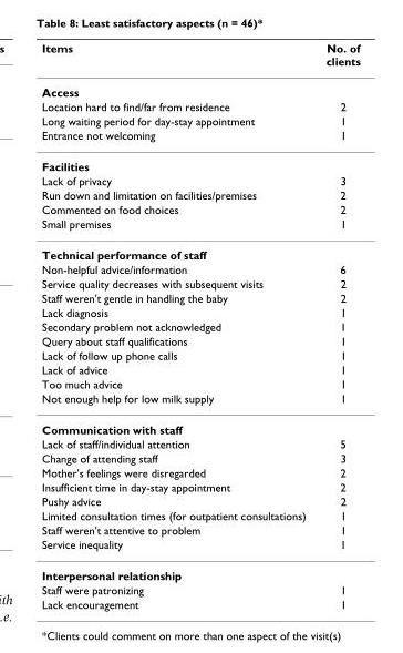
<table><thead><tr><td>Items</td><td>No. of clients</td></tr></thead><tbody><tr><td colspan="2">Access</td></tr><tr><td>Location hard to find/far from residence</td><td>2</td></tr><tr><td>Long waiting period for day-stay appointment</td><td>1</td></tr><tr><td>Entrance not welcoming</td><td>1</td></tr><tr><td colspan="2">Facilities</td></tr><tr><td>Lack of privacy</td><td>3</td></tr><tr><td>Run down and limitation on facilities/premises</td><td>2</td></tr><tr><td>Commented on food choices</td><td>2</td></tr><tr><td>Small premises</td><td>1</td></tr><tr><td colspan="2">Technical performance of staff</td></tr><tr><td>Non-helpful advice/information</td><td>6</td></tr><tr><td>Service quality decreases with subsequent visits</td><td>2</td></tr><tr><td>Staff weren&#x27;t gentle in handling the baby</td><td>2</td></tr><tr><td>Lack diagnosis</td><td>1</td></tr><tr><td>Secondary problem not acknowledged</td><td>1</td></tr><tr><td>Query about staff qualifications</td><td>1</td></tr><tr><td>Lack of follow up phone calls</td><td>1</td></tr><tr><td>Lack of advice</td><td>1</td></tr><tr><td>Too much advice</td><td>1</td></tr><tr><td>Not enough help for low milk supply</td><td>1</td></tr><tr><td colspan="2">Communication with staff</td></tr><tr><td>Lack of staff/individual attention</td><td>5</td></tr><tr><td>Change of attending staff</td><td>3</td></tr><tr><td>Mother&#x27;s feelings were disregarded</td><td>2</td></tr><tr><td>Insufficient time in day-stay appointment</td><td>2</td></tr><tr><td>Pushy advice</td><td>2</td></tr><tr><td>Limited consultation times (for outpatient consultations)</td><td>1</td></tr><tr><td>Staff weren&#x27;t attentive to problem</td><td>1</td></tr><tr><td>Service inequality</td><td>1</td></tr><tr><td colspan="2">Interpersonal relationship</td></tr><tr><td>Staff were patronizing</td><td>1</td></tr><tr><td>Lack encouragement</td><td>1</td></tr></tbody></table>